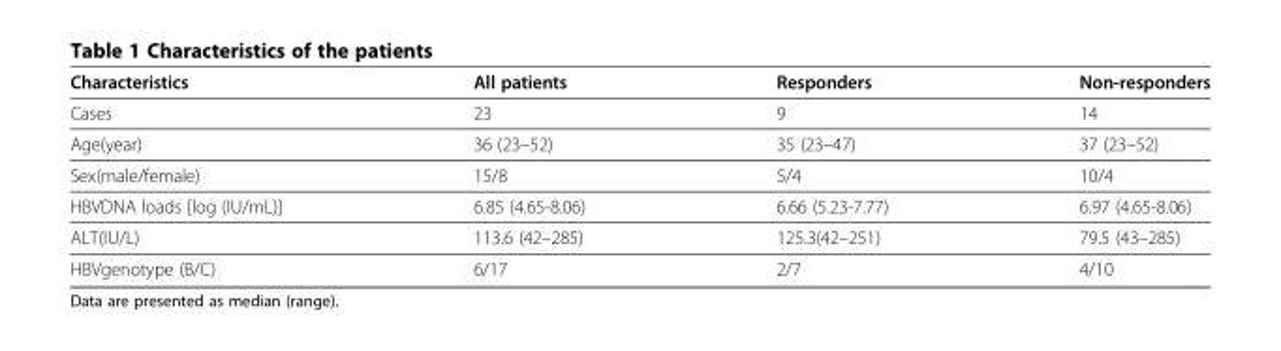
<table><thead><tr><td>Characteristics</td><td>All patients</td><td>Responders</td><td>Non-responders</td></tr></thead><tbody><tr><td>Cases</td><td>23</td><td>9</td><td>14</td></tr><tr><td>Age(year)</td><td>36 (23–52)</td><td>35 (23–47)</td><td>37 (23–52)</td></tr><tr><td>Sex(male/female)</td><td>15/8</td><td>5/4</td><td>10/4</td></tr><tr><td>HBVDNA loads [log (IU/mL)]</td><td>6.85 (4.65-8.06)</td><td>6.66 (5.23-7.77)</td><td>6.97 (4.65-8.06)</td></tr><tr><td>ALT(IU/L)</td><td>113.6 (42–285)</td><td>125.3(42–251)</td><td>79.5 (43–285)</td></tr><tr><td>HBVgenotype (B/C)</td><td>6/17</td><td>2/7</td><td>4/10</td></tr></tbody></table>